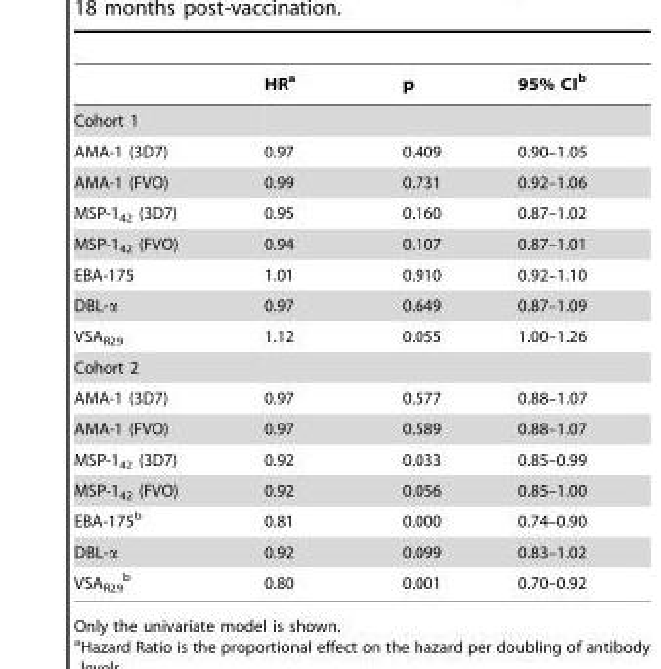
<table><thead><tr><td></td><td>HR<sup>a</sup></td><td>p</td><td>95% CI<sup>b</sup></td></tr></thead><tbody><tr><td colspan="4">Cohort 1</td></tr><tr><td>AMA-1 (3D7)</td><td>0.97</td><td>0.409</td><td>0.90–1.05</td></tr><tr><td>AMA-1 (FVO)</td><td>0.99</td><td>0.731</td><td>0.92–1.06</td></tr><tr><td>MSP-1<sub>42</sub> (3D7)</td><td>0.95</td><td>0.160</td><td>0.87–1.02</td></tr><tr><td>MSP-1<sub>42</sub> (FVO)</td><td>0.94</td><td>0.107</td><td>0.87–1.01</td></tr><tr><td>EBA-175</td><td>1.01</td><td>0.910</td><td>0.92–1.10</td></tr><tr><td>DBL-α</td><td>0.97</td><td>0.649</td><td>0.87–1.09</td></tr><tr><td>VSA<sub>R29</sub></td><td>1.12</td><td>0.055</td><td>1.00–1.26</td></tr><tr><td colspan="4">Cohort 2</td></tr><tr><td>AMA-1 (3D7)</td><td>0.97</td><td>0.577</td><td>0.88–1.07</td></tr><tr><td>AMA-1 (FVO)</td><td>0.97</td><td>0.589</td><td>0.88–1.07</td></tr><tr><td>MSP-1<sub>42</sub> (3D7)</td><td>0.92</td><td>0.033</td><td>0.85–0.99</td></tr><tr><td>MSP-1<sub>42</sub> (FVO)</td><td>0.92</td><td>0.056</td><td>0.85–1.00</td></tr><tr><td>EBA-175<sup>b</sup></td><td>0.81</td><td>0.000</td><td>0.74–0.90</td></tr><tr><td>DBL-α</td><td>0.92</td><td>0.099</td><td>0.83–1.02</td></tr><tr><td>VSA<sub>R29</sub> b</td><td>0.80</td><td>0.001</td><td>0.70–0.92</td></tr></tbody></table>